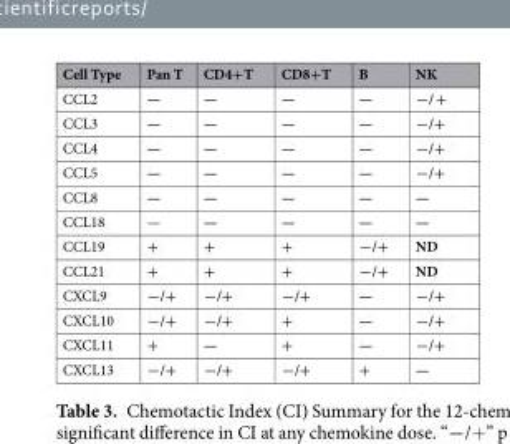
<table><thead><tr><td>Cell Type</td><td>Pan T</td><td>CD4+T</td><td>CD8+T</td><td>B</td><td>NK</td></tr></thead><tbody><tr><td>CCL2</td><td>—</td><td>—</td><td>—</td><td>—</td><td>−/ +</td></tr><tr><td>CCL3</td><td>—</td><td>—</td><td>—</td><td>—</td><td>−/+</td></tr><tr><td>CCL4</td><td>—</td><td>—</td><td>—</td><td>—</td><td>−/+</td></tr><tr><td>CCL5</td><td>—</td><td>—</td><td>—</td><td>—</td><td>−/+</td></tr><tr><td>CCL8</td><td>—</td><td>—</td><td>—</td><td>—</td><td>—</td></tr><tr><td>CCL18</td><td>—</td><td>—</td><td>—</td><td>—</td><td>—</td></tr><tr><td>CCL19</td><td>+</td><td>+</td><td>+</td><td>−/+</td><td>ND</td></tr><tr><td>CCL21</td><td>+</td><td>+</td><td>+</td><td>−/+</td><td>ND</td></tr><tr><td>CXCL9</td><td>−/+</td><td>−/+</td><td>−/+</td><td>—</td><td>−/+</td></tr><tr><td>CXCL10</td><td>−/+</td><td>−/+</td><td>+</td><td>—</td><td>−/+</td></tr><tr><td>CXCL11</td><td>+</td><td>—</td><td>+</td><td>—</td><td>−/+</td></tr><tr><td>CXCL13</td><td>−/+</td><td>−/+</td><td>−/+</td><td>+</td><td>—</td></tr></tbody></table>